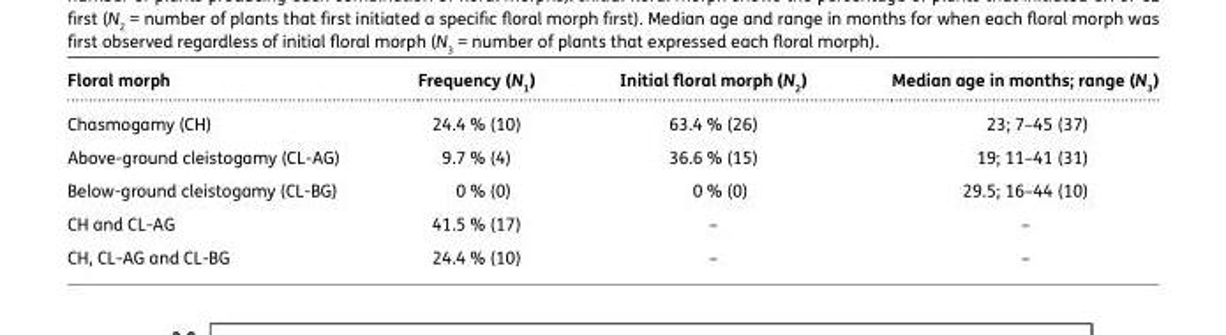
<table><thead><tr><td>Floral morph</td><td>Frequency (N<sub>1</sub>)</td><td>Initial floral morph (N<sub>2</sub>)</td><td>Median age in months; range (N<sub>3</sub>)</td></tr></thead><tbody><tr><td>Chasmogamy (CH)</td><td>24.4 % (10)</td><td>63.4 % (26)</td><td>23; 7–45 (37)</td></tr><tr><td>Above-ground cleistogamy (CL-AG)</td><td>9.7 % (4)</td><td>36.6 % (15)</td><td>19; 11–41 (31)</td></tr><tr><td>Below-ground cleistogamy (CL-BG)</td><td>0 % (0)</td><td>0 % (0)</td><td>29.5; 16–44 (10)</td></tr><tr><td>CH and CL-AG</td><td>41.5 % (17)</td><td>–</td><td>–</td></tr><tr><td>CH, CL-AG and CL-BG</td><td>24.4 % (10)</td><td>–</td><td>–</td></tr></tbody></table>